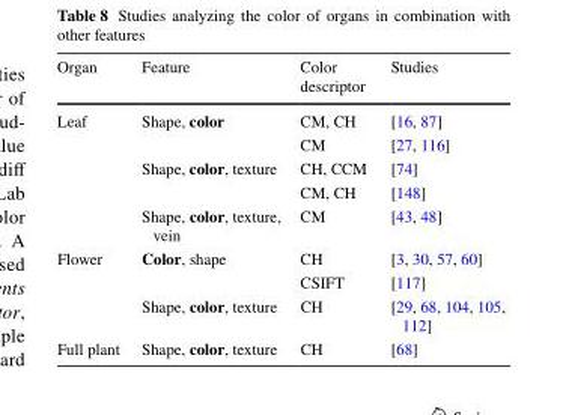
<table><thead><tr><td>Organ</td><td>Feature</td><td>Color descriptor</td><td>Studies</td></tr></thead><tbody><tr><td rowspan="5">Leaf</td><td>Shape, color</td><td>CM, CH</td><td>[16, 87]</td></tr><tr><td></td><td>CM</td><td>[27, 116]</td></tr><tr><td>Shape, color, texture</td><td>CH, CCM</td><td>[74]</td></tr><tr><td></td><td>CM, CH</td><td>[148]</td></tr><tr><td>Shape, color, texture, vein</td><td>CM</td><td>[43, 48]</td></tr><tr><td rowspan="3">Flower</td><td>Color, shape</td><td>CH</td><td>[3, 30, 57, 60]</td></tr><tr><td></td><td>CSIFT</td><td>[117]</td></tr><tr><td>Shape, color, texture</td><td>CH</td><td>[29, 68, 104, 105, 112]</td></tr><tr><td>Full plant</td><td>Shape, color, texture</td><td>CH</td><td>[68]</td></tr></tbody></table>